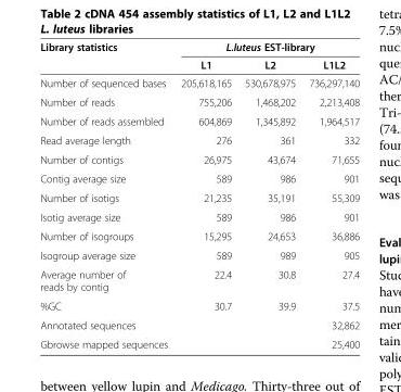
<table><thead><tr><td rowspan="2">Library statistics</td><td colspan="3">L.luteus EST-library</td></tr><tr><td>L1</td><td>L2</td><td>L1L2</td></tr></thead><tbody><tr><td>Number of sequenced bases</td><td>205,618,165</td><td>530,678,975</td><td>736,297,140</td></tr><tr><td>Number of reads</td><td>755,206</td><td>1,468,202</td><td>2,213,408</td></tr><tr><td>Number of reads assembled</td><td>604,869</td><td>1,345,892</td><td>1,964,517</td></tr><tr><td>Read average length</td><td>276</td><td>361</td><td>332</td></tr><tr><td>Number of contigs</td><td>26,975</td><td>43,674</td><td>71,655</td></tr><tr><td>Contig average size</td><td>589</td><td>986</td><td>901</td></tr><tr><td>Number of isotigs</td><td>21,235</td><td>35,191</td><td>55,309</td></tr><tr><td>Isotig average size</td><td>589</td><td>986</td><td>901</td></tr><tr><td>Number of isogroups</td><td>15,295</td><td>24,653</td><td>36,886</td></tr><tr><td>Isogroup average size</td><td>589</td><td>989</td><td>905</td></tr><tr><td>Average number of reads by contig</td><td>22.4</td><td>30.8</td><td>27.4</td></tr><tr><td>%GC</td><td>30.7</td><td>39.9</td><td>37.5</td></tr><tr><td>Annotated sequences</td><td></td><td></td><td>32,862</td></tr><tr><td>Gbrowse mapped sequences</td><td></td><td></td><td>25,400</td></tr></tbody></table>